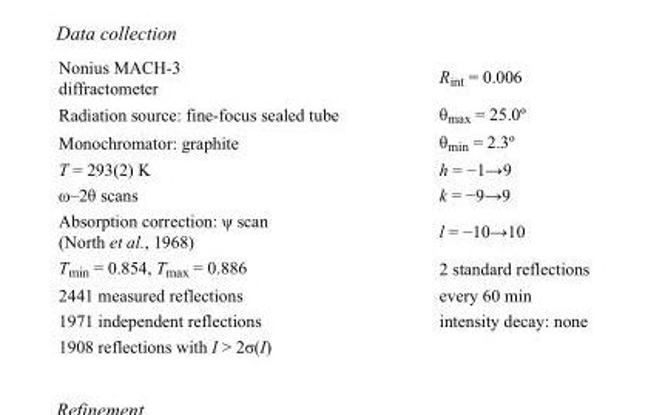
<table><tbody><tr><td>Nonius MACH-3 diffractometer</td><td>R<sub>int</sub> = 0.006</td></tr><tr><td>Radiation source: fine-focus sealed tube</td><td>θ<sub>max</sub> = 25.0º</td></tr><tr><td>Monochromator: graphite</td><td>θ<sub>min</sub> = 2.3º</td></tr><tr><td>T = 293(2) K</td><td>h = −1→9</td></tr><tr><td>ω–2θ scans</td><td>k = −9→9</td></tr><tr><td>Absorption correction: ψ scan (North et al., 1968)</td><td>l = −10→10</td></tr><tr><td>T<sub>min</sub> = 0.854, T<sub>max</sub> = 0.886</td><td>2 standard reflections</td></tr><tr><td>2441 measured reflections</td><td>every 60 min</td></tr><tr><td>1971 independent reflections</td><td>intensity decay: none</td></tr><tr><td>1908 reflections with I &gt; 2σ(I)</td><td></td></tr></tbody></table>